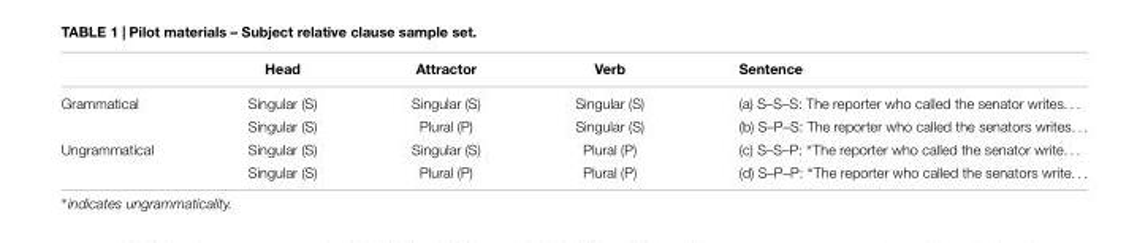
<table><thead><tr><td></td><td>Head</td><td>Attractor</td><td>Verb</td><td>Sentence</td></tr></thead><tbody><tr><td rowspan="2">Grammatical</td><td>Singular (S)</td><td>Singular (S)</td><td>Singular (S)</td><td>(a) S–S–S: The reporter who called the senator writes. .</td></tr><tr><td>Singular (S)</td><td>Plural (P)</td><td>Singular (S)</td><td>(b) S–P–S: The reporter who called the senators writes…</td></tr><tr><td rowspan="2">Ungrammatical</td><td>Singular (S)</td><td>Singular (S)</td><td>Plural (P)</td><td>(c) S–S–P: ∗The reporter who called the senator write. .</td></tr><tr><td>Singular (S)</td><td>Plural (P)</td><td>Plural (P)</td><td>(d) S–P–P: ∗The reporter who called the senators write…</td></tr></tbody></table>